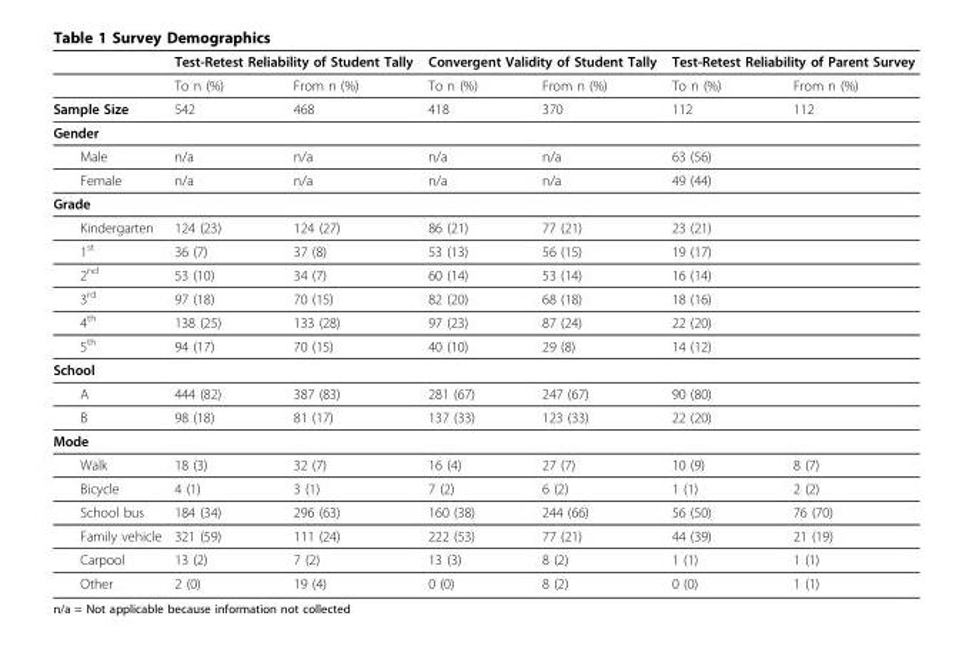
<table><thead><tr><td rowspan="2"></td><td colspan="2">Test-Retest Reliability of Student Tally</td><td colspan="2">Convergent Validity of Student Tally</td><td colspan="2">Test-Retest Reliability of Parent Survey</td></tr><tr><td>To n (%)</td><td>From n (%)</td><td>To n (%)</td><td>From n (%)</td><td>To n (%)</td><td>From n (%)</td></tr></thead><tbody><tr><td>Sample Size</td><td>542</td><td>468</td><td>418</td><td>370</td><td>112</td><td>112</td></tr><tr><td colspan="7">Gender</td></tr><tr><td>Male</td><td>n/a</td><td>n/a</td><td>n/a</td><td>n/a</td><td>63 (56)</td><td></td></tr><tr><td>Female</td><td>n/a</td><td>n/a</td><td>n/a</td><td>n/a</td><td>49 (44)</td><td></td></tr><tr><td colspan="7">Grade</td></tr><tr><td>Kindergarten</td><td>124 (23)</td><td>124 (27)</td><td>86 (21)</td><td>77 (21)</td><td>23 (21)</td><td></td></tr><tr><td>1<sup>st</sup></td><td>36 (7)</td><td>37 (8)</td><td>53 (13)</td><td>56 (15)</td><td>19 (17)</td><td></td></tr><tr><td>2<sup>nd</sup></td><td>53 (10)</td><td>34 (7)</td><td>60 (14)</td><td>53 (14)</td><td>16 (14)</td><td></td></tr><tr><td>3<sup>rd</sup></td><td>97 (18)</td><td>70 (15)</td><td>82 (20)</td><td>68 (18)</td><td>18 (16)</td><td></td></tr><tr><td>4<sup>th</sup></td><td>138 (25)</td><td>133 (28)</td><td>97 (23)</td><td>87 (24)</td><td>22 (20)</td><td></td></tr><tr><td>5<sup>th</sup></td><td>94 (17)</td><td>70 (15)</td><td>40 (10)</td><td>29 (8)</td><td>14 (12)</td><td></td></tr><tr><td colspan="7">School</td></tr><tr><td>A</td><td>444 (82)</td><td>387 (83)</td><td>281 (67)</td><td>247 (67)</td><td>90 (80)</td><td></td></tr><tr><td>B</td><td>98 (18)</td><td>81 (17)</td><td>137 (33)</td><td>123 (33)</td><td>22 (20)</td><td></td></tr><tr><td colspan="7">Mode</td></tr><tr><td>Walk</td><td>18 (3)</td><td>32 (7)</td><td>16 (4)</td><td>27 (7)</td><td>10 (9)</td><td>8 (7)</td></tr><tr><td>Bicycle</td><td>4 (1)</td><td>3 (1)</td><td>7 (2)</td><td>6 (2)</td><td>1 (1)</td><td>2 (2)</td></tr><tr><td>School bus</td><td>184 (34)</td><td>296 (63)</td><td>160 (38)</td><td>244 (66)</td><td>56 (50)</td><td>76 (70)</td></tr><tr><td>Family vehicle</td><td>321 (59)</td><td>111 (24)</td><td>222 (53)</td><td>77 (21)</td><td>44 (39)</td><td>21 (19)</td></tr><tr><td>Carpool</td><td>13 (2)</td><td>7 (2)</td><td>13 (3)</td><td>8 (2)</td><td>1 (1)</td><td>1 (1)</td></tr><tr><td>Other</td><td>2 (0)</td><td>19 (4)</td><td>0 (0)</td><td>8 (2)</td><td>0 (0)</td><td>1 (1)</td></tr></tbody></table>